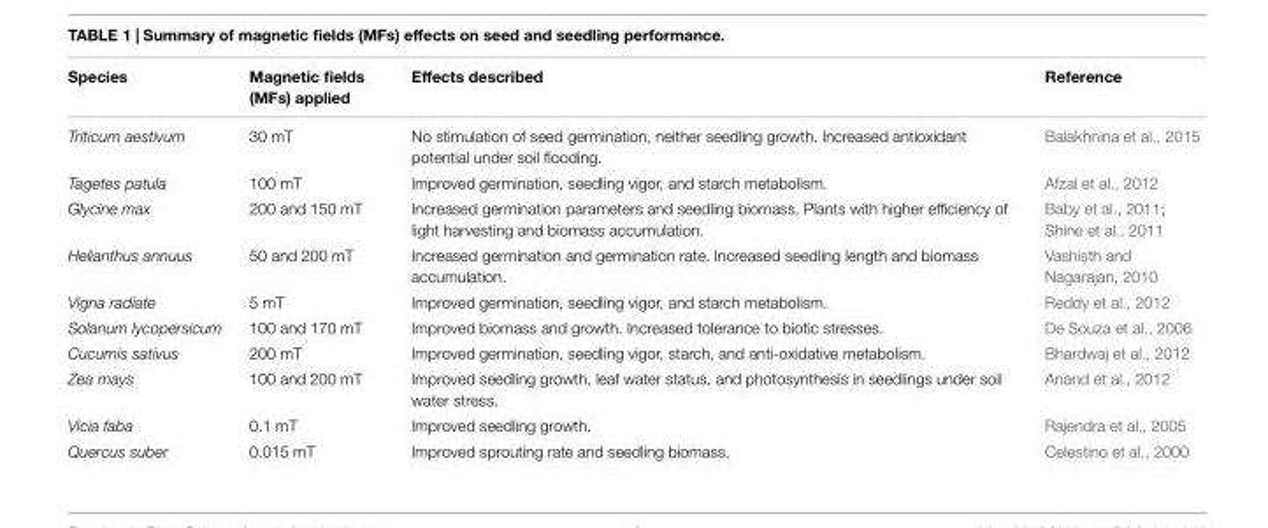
<table><thead><tr><td>Species</td><td>Magnetic fields (MFs) applied</td><td>Effects described</td><td>Reference</td></tr></thead><tbody><tr><td>Triticum aestivum</td><td>30 mT</td><td>No stimulation of seed germination, neither seedling growth. Increased antioxidant potential under soil flooding.</td><td>Balakhnina et al., 2015</td></tr><tr><td>Tagetes patula</td><td>100 mT</td><td>Improved germination, seedling vigor, and starch metabolism.</td><td>Afzal et al., 2012</td></tr><tr><td>Glycine max</td><td>200 and 150 mT</td><td>Increased germination parameters and seedling biomass. Plants with higher efficiency of light harvesting and biomass accumulation.</td><td>Baby et al., 2011; Shine et al., 2011</td></tr><tr><td>Helianthus annuus</td><td>50 and 200 mT</td><td>Increased germination and germination rate. Increased seedling length and biomass accumulation.</td><td>Vashisth and Nagarajan, 2010</td></tr><tr><td>Vigna radiate</td><td>5 mT</td><td>Improved germination, seedling vigor, and starch metabolism.</td><td>Reddy et al., 2012</td></tr><tr><td>Solanum lycopersicum</td><td>100 and 170 mT</td><td>Improved biomass and growth. Increased tolerance to biotic stresses.</td><td>De Souza et al., 2006</td></tr><tr><td>Cucumis sativus</td><td>200 mT</td><td>Improved germination, seedling vigor, starch, and anti-oxidative metabolism.</td><td>Bhardwaj et al., 2012</td></tr><tr><td>Zea mays</td><td>100 and 200 mT</td><td>Improved seedling growth, leaf water status, and photosynthesis in seedlings under soil water stress.</td><td>Anand et al., 2012</td></tr><tr><td>Vicia faba</td><td>0.1 mT</td><td>Improved seedling growth.</td><td>Rajendra et al., 2005</td></tr><tr><td>Quercus suber</td><td>0.015 mT</td><td>Improved sprouting rate and seedling biomass.</td><td>Celestino et al., 2000</td></tr></tbody></table>